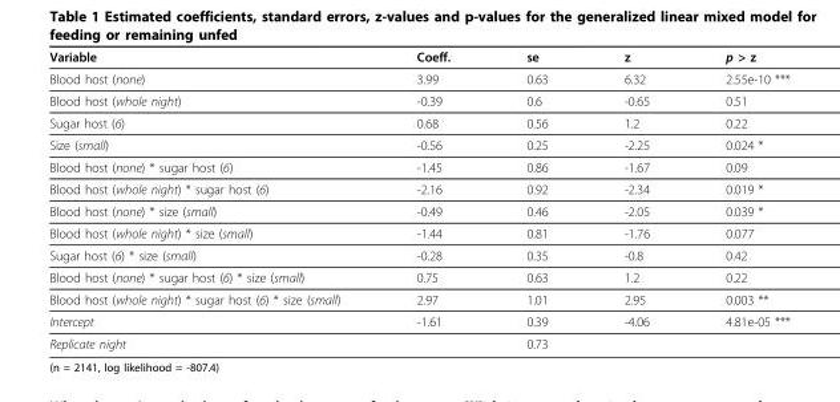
<table><thead><tr><td>Variable</td><td>Coeff.</td><td>se</td><td>z</td><td>p &gt; z</td></tr></thead><tbody><tr><td>Blood host (none)</td><td>3.99</td><td>0.63</td><td>6.32</td><td>2.55e-10 ***</td></tr><tr><td>Blood host (whole night)</td><td>-0.39</td><td>0.6</td><td>-0.65</td><td>0.51</td></tr><tr><td>Sugar host (6)</td><td>0.68</td><td>0.56</td><td>1.2</td><td>0.22</td></tr><tr><td>Size (small)</td><td>-0.56</td><td>0.25</td><td>-2.25</td><td>0.024 *</td></tr><tr><td>Blood host (none) * sugar host (6)</td><td>-1.45</td><td>0.86</td><td>-1.67</td><td>0.09</td></tr><tr><td>Blood host (whole night) * sugar host (6)</td><td>-2.16</td><td>0.92</td><td>-2.34</td><td>0.019 *</td></tr><tr><td>Blood host (none) * size (small)</td><td>-0.49</td><td>0.46</td><td>-2.05</td><td>0.039 *</td></tr><tr><td>Blood host (whole night) * size (small)</td><td>-1.44</td><td>0.81</td><td>-1.76</td><td>0.077</td></tr><tr><td>Sugar host (6) * size (small)</td><td>-0.28</td><td>0.35</td><td>-0.8</td><td>0.42</td></tr><tr><td>Blood host (none) * sugar host (6) * size (small)</td><td>0.75</td><td>0.63</td><td>1.2</td><td>0.22</td></tr><tr><td>Blood host (whole night) * sugar host (6) * size (small)</td><td>2.97</td><td>1.01</td><td>2.95</td><td>0.003 **</td></tr><tr><td>Intercept</td><td>-1.61</td><td>0.39</td><td>-4.06</td><td>4.81e-05 ***</td></tr><tr><td>Replicate night</td><td></td><td>0.73</td><td></td><td></td></tr></tbody></table>